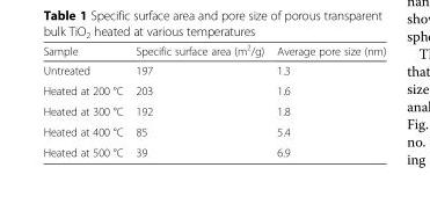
<table><thead><tr><td>Sample</td><td>Specific surface area (m<sup>2</sup>/g)</td><td>Average pore size (nm)</td></tr></thead><tbody><tr><td>Untreated</td><td>197</td><td>1.3</td></tr><tr><td>Heated at 200 °C</td><td>203</td><td>1.6</td></tr><tr><td>Heated at 300 °C</td><td>192</td><td>1.8</td></tr><tr><td>Heated at 400 °C</td><td>85</td><td>5.4</td></tr><tr><td>Heated at 500 °C</td><td>39</td><td>6.9</td></tr></tbody></table>